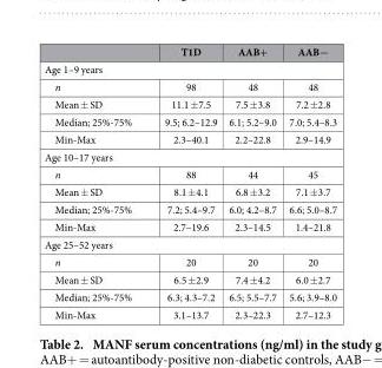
<table><thead><tr><td></td><td>T1D</td><td>AAB+</td><td>AAB−</td></tr></thead><tbody><tr><td colspan="4">Age 1–9 years</td></tr><tr><td>n</td><td>98</td><td>48</td><td>48</td></tr><tr><td>Mean ± SD</td><td>11.1 ± 7.5</td><td>7.5 ± 3.8</td><td>7.2 ± 2.8</td></tr><tr><td>Median; 25%-75%</td><td>9.5; 6.2–12.9</td><td>6.1; 5.2–9.0</td><td>7.0; 5.4–8.3</td></tr><tr><td>Min-Max</td><td>2.3–40.1</td><td>2.2–22.8</td><td>2.9–14.9</td></tr><tr><td colspan="4">Age 10–17 years</td></tr><tr><td>n</td><td>88</td><td>44</td><td>45</td></tr><tr><td>Mean ± SD</td><td>8.1 ± 4.1</td><td>6.8 ± 3.2</td><td>7.1 ± 3.7</td></tr><tr><td>Median; 25%-75%</td><td>7.2; 5.4–9.7</td><td>6.0; 4.2–8.7</td><td>6.6; 5.0–8.7</td></tr><tr><td>Min-Max</td><td>2.7–19.6</td><td>2.3–14.5</td><td>1.4–21.8</td></tr><tr><td colspan="4">Age 25–52 years</td></tr><tr><td>n</td><td>20</td><td>20</td><td>20</td></tr><tr><td>Mean ± SD</td><td>6.5 ± 2.9</td><td>7.4 ± 4.2</td><td>6.0 ± 2.7</td></tr><tr><td>Median; 25%-75%</td><td>6.3; 4.3–7.2</td><td>6.5; 5.5–7.7</td><td>5.6; 3.9–8.0</td></tr><tr><td>Min-Max</td><td>3.1–13.7</td><td>2.3–22.3</td><td>2.7–12.3</td></tr></tbody></table>